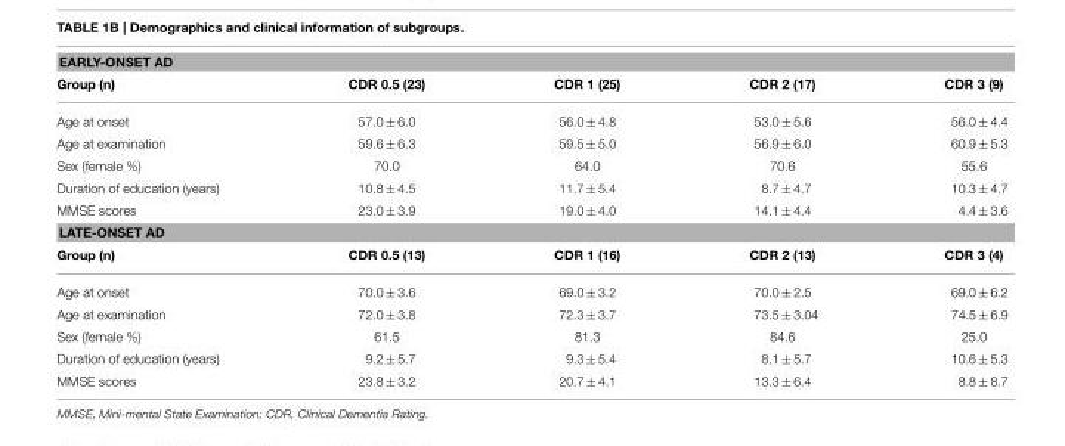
<table><tbody><tr><td colspan="5">EARLY-ONSET AD</td></tr><tr><td>Group (n)</td><td>CDR 0.5 (23)</td><td>CDR 1 (25)</td><td>CDR 2 (17)</td><td>CDR 3 (9)</td></tr><tr><td>Age at onset</td><td>57.0 ± 6.0</td><td>56.0 ± 4.8</td><td>53.0 ± 5.6</td><td>56.0 ± 4.4</td></tr><tr><td>Age at examination</td><td>59.6 ± 6.3</td><td>59.5 ± 5.0</td><td>56.9 ± 6.0</td><td>60.9 ± 5.3</td></tr><tr><td>Sex (female %)</td><td>70.0</td><td>64.0</td><td>70.6</td><td>55.6</td></tr><tr><td>Duration of education (years)</td><td>10.8 ± 4.5</td><td>11.7 ± 5.4</td><td>8.7 ± 4.7</td><td>10.3 ± 4.7</td></tr><tr><td>MMSE scores</td><td>23.0 ± 3.9</td><td>19.0 ± 4.0</td><td>14.1 ± 4.4</td><td>4.4 ± 3.6</td></tr><tr><td colspan="5">LATE-ONSET AD</td></tr><tr><td>Group (n)</td><td>CDR 0.5 (13)</td><td>CDR 1 (16)</td><td>CDR 2 (13)</td><td>CDR 3 (4)</td></tr><tr><td>Age at onset</td><td>70.0 ± 3.6</td><td>69.0 ± 3.2</td><td>70.0 ± 2.5</td><td>69.0 ± 6.2</td></tr><tr><td>Age at examination</td><td>72.0 ± 3.8</td><td>72.3 ± 3.7</td><td>73.5 ± 3.04</td><td>74.5 ± 6.9</td></tr><tr><td>Sex (female %)</td><td>61.5</td><td>81.3</td><td>84.6</td><td>25.0</td></tr><tr><td>Duration of education (years)</td><td>9.2 ± 5.7</td><td>9.3 ± 5.4</td><td>8.1 ± 5.7</td><td>10.6 ± 5.3</td></tr><tr><td>MMSE scores</td><td>23.8 ± 3.2</td><td>20.7 ± 4.1</td><td>13.3 ± 6.4</td><td>8.8 ± 8.7</td></tr></tbody></table>